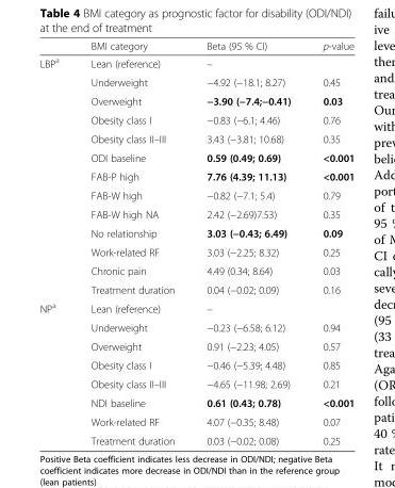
<table><thead><tr><td></td><td>BMI category</td><td>Beta (95 % CI)</td><td>p-value</td></tr></thead><tbody><tr><td rowspan="13">LBP<sup>a</sup></td><td>Lean (reference)</td><td>–</td><td></td></tr><tr><td>Underweight</td><td>−4.92 (−18.1; 8.27)</td><td>0.45</td></tr><tr><td>Overweight</td><td>−3.90 (−7.4;−0.41)</td><td>0.03</td></tr><tr><td>Obesity class I</td><td>−0.83 (−6.1; 4.46)</td><td>0.76</td></tr><tr><td>Obesity class II–III</td><td>3.43 (−3.81; 10.68)</td><td>0.35</td></tr><tr><td>ODI baseline</td><td>0.59 (0.49; 0.69)</td><td>&lt;0.001</td></tr><tr><td>FAB-P high</td><td>7.76 (4.39; 11.13)</td><td>&lt;0.001</td></tr><tr><td>FAB-W high</td><td>−0.82 (−7.1; 5.4)</td><td>0.79</td></tr><tr><td>FAB-W high NA</td><td>2.42 (−2.69)7.53)</td><td>0.35</td></tr><tr><td>No relationship</td><td>3.03 (−0.43; 6.49)</td><td>0.09</td></tr><tr><td>Work-related RF</td><td>3.03 (−2.25; 8.32)</td><td>0.25</td></tr><tr><td>Chronic pain</td><td>4.49 (0.34; 8.64)</td><td>0.03</td></tr><tr><td>Treatment duration</td><td>0.04 (−0.02; 0.09)</td><td>0.16</td></tr><tr><td rowspan="8">NP<sup>a</sup></td><td>Lean (reference)</td><td>–</td><td></td></tr><tr><td>Underweight</td><td>−0.23 (−6.58; 6.12)</td><td>0.94</td></tr><tr><td>Overweight</td><td>0.91 (−2.23; 4.05)</td><td>0.57</td></tr><tr><td>Obesity class I</td><td>−0.46 (−5.39; 4.48)</td><td>0.85</td></tr><tr><td>Obesity class II–III</td><td>−4.65 (−11.98; 2.69)</td><td>0.21</td></tr><tr><td>NDI baseline</td><td>0.61 (0.43; 0.78)</td><td>&lt;0.001</td></tr><tr><td>Work-related RF</td><td>4.07 (−0.35; 8.48)</td><td>0.07</td></tr><tr><td>Treatment duration</td><td>0.03 (−0.02; 0.08)</td><td>0.25</td></tr></tbody></table>